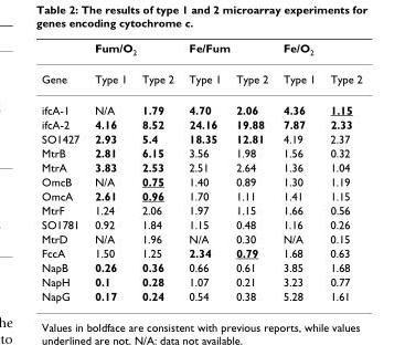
<table><thead><tr><td rowspan="2">Gene</td><td colspan="2">Fum/O<sub>2</sub></td><td colspan="2">Fe/Fum</td><td colspan="2">Fe/O<sub>2</sub></td></tr><tr><td>Type 1</td><td>Type 2</td><td>Type 1</td><td>Type 2</td><td>Type 1</td><td>Type 2</td></tr></thead><tbody><tr><td>ifcA-1</td><td>N/A</td><td>1.79</td><td>4.70</td><td>2.06</td><td>4.36</td><td>1.15</td></tr><tr><td>ifcA-2</td><td>4.16</td><td>8.52</td><td>24.16</td><td>19.88</td><td>7.87</td><td>2.33</td></tr><tr><td>SO1427</td><td>2.93</td><td>5.4</td><td>18.35</td><td>12.81</td><td>4.19</td><td>2.37</td></tr><tr><td>MtrB</td><td>2.81</td><td>6.15</td><td>3.56</td><td>1.98</td><td>1.56</td><td>0.32</td></tr><tr><td>MtrA</td><td>3.83</td><td>2.53</td><td>2.51</td><td>2.64</td><td>1.36</td><td>1.04</td></tr><tr><td>OmcB</td><td>N/A</td><td>0.75</td><td>1.40</td><td>0.89</td><td>1.30</td><td>1.19</td></tr><tr><td>OmcA</td><td>2.61</td><td>0.96</td><td>1.70</td><td>1.11</td><td>1.41</td><td>1.15</td></tr><tr><td>MtrF</td><td>1.24</td><td>2.06</td><td>1.97</td><td>1.15</td><td>1.66</td><td>0.56</td></tr><tr><td>SO1781</td><td>0.92</td><td>1.84</td><td>1.15</td><td>0.48</td><td>1.16</td><td>0.26</td></tr><tr><td>MtrD</td><td>N/A</td><td>1.96</td><td>N/A</td><td>0.30</td><td>N/A</td><td>0.15</td></tr><tr><td>FccA</td><td>1.50</td><td>1.25</td><td>2.34</td><td>0.79</td><td>1.68</td><td>0.63</td></tr><tr><td>NapB</td><td>0.26</td><td>0.36</td><td>0.66</td><td>0.61</td><td>3.85</td><td>1.68</td></tr><tr><td>NapH</td><td>0.1</td><td>0.28</td><td>1.07</td><td>0.21</td><td>3.23</td><td>0.77</td></tr><tr><td>NapG</td><td>0.17</td><td>0.24</td><td>0.54</td><td>0.38</td><td>5.28</td><td>1.61</td></tr></tbody></table>